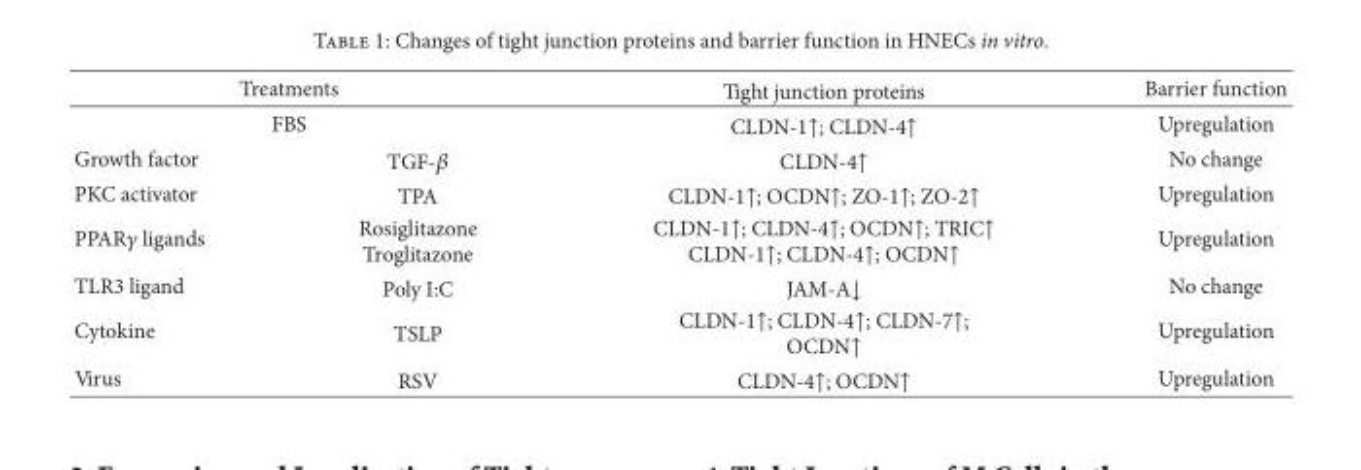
<table><thead><tr><td rowspan="2" colspan="2">Treatments FBS</td><td rowspan="3">Tight junction proteins CLDN-1↑; CLDN-4↑ CLDN-4↑</td><td rowspan="3">Barrier function Upregulation No change</td></tr><tr></tr><tr><td>Growth factor</td><td>TGF-𝛽𝛽</td></tr></thead><tbody><tr><td>PKC activator</td><td>TPA</td><td>CLDN-1↑; OCDN↑; ZO-1↑; ZO-2↑</td><td>Upregulation</td></tr><tr><td>PPAR𝛾𝛾 ligands</td><td>Rosiglitazone Troglitazone</td><td>CLDN-1↑; CLDN-4↑; OCDN↑; TRIC↑ CLDN-1↑; CLDN-4↑; OCDN↑</td><td>Upregulation</td></tr><tr><td>TLR3 ligand</td><td>Poly I:C</td><td>JAM-A↓</td><td>No change</td></tr><tr><td>Cytokine</td><td>TSLP</td><td>CLDN-1↑; CLDN-4↑; CLDN-7↑; OCDN↑</td><td>Upregulation</td></tr><tr><td>Virus</td><td>RSV</td><td>CLDN-4↑; OCDN↑</td><td>Upregulation</td></tr></tbody></table>